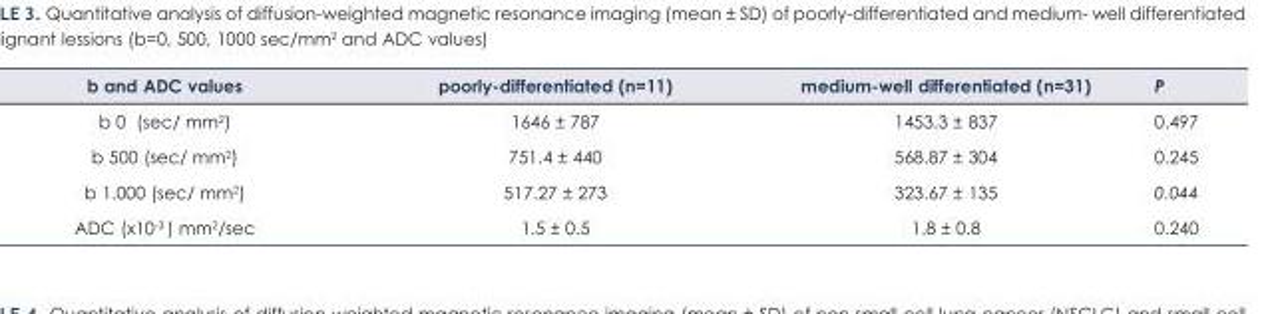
<table><thead><tr><td>b and ADC values</td><td>poorly-differentiated (n=11)</td><td>medium-well differentiated (n=31)</td><td>P</td></tr></thead><tbody><tr><td>b 0 (sec/ mm<sup>2</sup>)</td><td>1646 ± 787</td><td>1453.3 ± 837</td><td>0.497</td></tr><tr><td>b 500 (sec/ mm<sup>2</sup>)</td><td>751.4 ± 440</td><td>568.87 ± 304</td><td>0.245</td></tr><tr><td>b 1.000 (sec/ mm<sup>2</sup>)</td><td>517.27 ± 273</td><td>323.67 ± 135</td><td>0.044</td></tr><tr><td>ADC (x10-3 ) mm2/sec</td><td>1.5 ± 0.5</td><td>1.8 ± 0.8</td><td>0.240</td></tr></tbody></table>